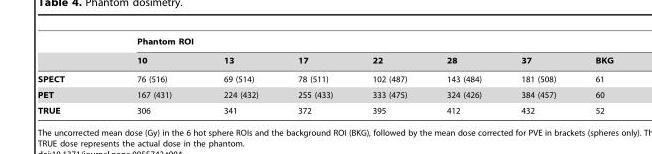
<table><thead><tr><td rowspan="2"></td><td colspan="7">Phantom ROI</td></tr><tr><td>10</td><td>13</td><td>17</td><td>22</td><td>28</td><td>37</td><td>BKG</td></tr></thead><tbody><tr><td>SPECT</td><td>76 (516)</td><td>69 (514)</td><td>78 (511)</td><td>102 (487)</td><td>143 (484)</td><td>181 (508)</td><td>61</td></tr><tr><td>PET</td><td>167 (431)</td><td>224 (432)</td><td>255 (433)</td><td>333 (475)</td><td>324 (426)</td><td>384 (457)</td><td>60</td></tr><tr><td>TRUE</td><td>306</td><td>341</td><td>372</td><td>395</td><td>412</td><td>432</td><td>52</td></tr></tbody></table>